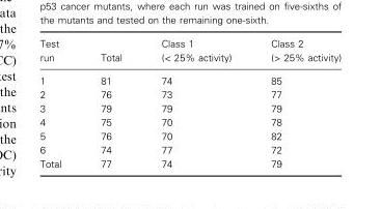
<table><thead><tr><td>Test run</td><td>Total</td><td>Class 1 (&lt; 25% activity)</td><td>Class 2 (&gt; 25% activity)</td></tr></thead><tbody><tr><td>1</td><td>81</td><td>74</td><td>85</td></tr><tr><td>2</td><td>76</td><td>73</td><td>77</td></tr><tr><td>3</td><td>79</td><td>79</td><td>79</td></tr><tr><td>4</td><td>75</td><td>70</td><td>78</td></tr><tr><td>5</td><td>76</td><td>70</td><td>82</td></tr><tr><td>6</td><td>74</td><td>77</td><td>72</td></tr><tr><td>Total</td><td>77</td><td>74</td><td>79</td></tr></tbody></table>